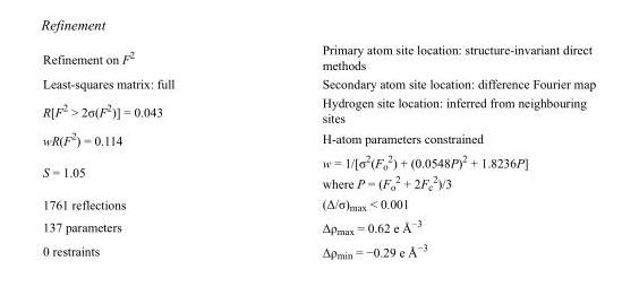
<table><tbody><tr><td>Refinement on F<sup>2</sup></td><td>Primary atom site location: structure-invariant direct methods</td></tr><tr><td>Least-squares matrix: full</td><td>Secondary atom site location: difference Fourier map</td></tr><tr><td>R[F<sup>2</sup> &gt; 2σ(F<sup>2</sup>)] = 0.043</td><td>Hydrogen site location: inferred from neighbouring sites</td></tr><tr><td>wR(F<sup>2</sup>) = 0.114</td><td>H-atom parameters constrained</td></tr><tr><td>S = 1.05</td><td>w = 1/[σ<sup>2</sup>(F<sub>o</sub> <sup>2</sup>) + (0.0548P)<sup>2</sup> + 1.8236P] where P = (F<sub>o</sub> <sup>2</sup> + 2F<sub>c</sub> <sup>2</sup>)/3</td></tr><tr><td>1761 reflections</td><td>(Δ/σ)<sub>max</sub> &lt; 0.001</td></tr><tr><td>137 parameters</td><td>Δρ<sub>max</sub> = 0.62 e Å<sup>−3</sup></td></tr><tr><td>0 restraints</td><td>Δρ<sub>min</sub> = −0.29 e Å<sup>−3</sup></td></tr></tbody></table>